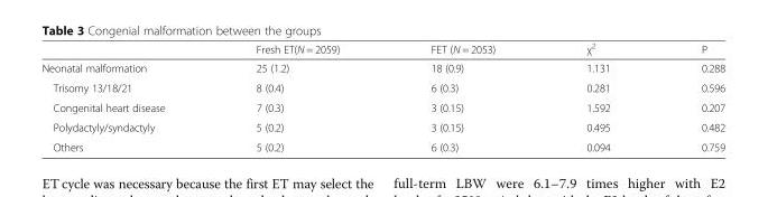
<table><thead><tr><td></td><td>Fresh ET(N = 2059)</td><td>FET (N = 2053)</td><td>χ<sup>2</sup></td><td>P</td></tr></thead><tbody><tr><td>Neonatal malformation</td><td>25 (1.2)</td><td>18 (0.9)</td><td>1.131</td><td>0.288</td></tr><tr><td>Trisomy 13/18/21</td><td>8 (0.4)</td><td>6 (0.3)</td><td>0.281</td><td>0.596</td></tr><tr><td>Congenital heart disease</td><td>7 (0.3)</td><td>3 (0.15)</td><td>1.592</td><td>0.207</td></tr><tr><td>Polydactyly/syndactyly</td><td>5 (0.2)</td><td>3 (0.15)</td><td>0.495</td><td>0.482</td></tr><tr><td>Others</td><td>5 (0.2)</td><td>6 (0.3)</td><td>0.094</td><td>0.759</td></tr></tbody></table>